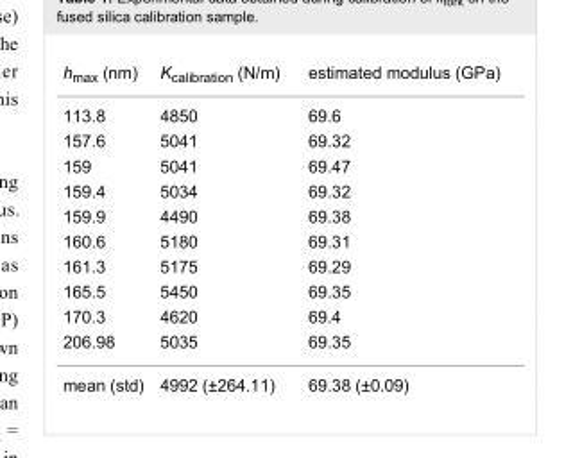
<table><tbody><tr><td>h<sub>max</sub> (nm)</td><td>K<sub>calibration</sub> (N/m)</td><td>estimated modulus (GPa)</td></tr><tr><td>113.8</td><td>4850</td><td>69.6</td></tr><tr><td>157.6</td><td>5041</td><td>69.32</td></tr><tr><td>159</td><td>5041</td><td>69.47</td></tr><tr><td>159.4</td><td>5034</td><td>69.32</td></tr><tr><td>159.9</td><td>4490</td><td>69.38</td></tr><tr><td>160.6</td><td>5180</td><td>69.31</td></tr><tr><td>161.3</td><td>5175</td><td>69.29</td></tr><tr><td>165.5</td><td>5450</td><td>69.35</td></tr><tr><td>170.3</td><td>4620</td><td>69.4</td></tr><tr><td>206.98</td><td>5035</td><td>69.35</td></tr><tr><td>mean (std)</td><td>4992 (±264.11)</td><td>69.38 (±0.09)</td></tr></tbody></table>